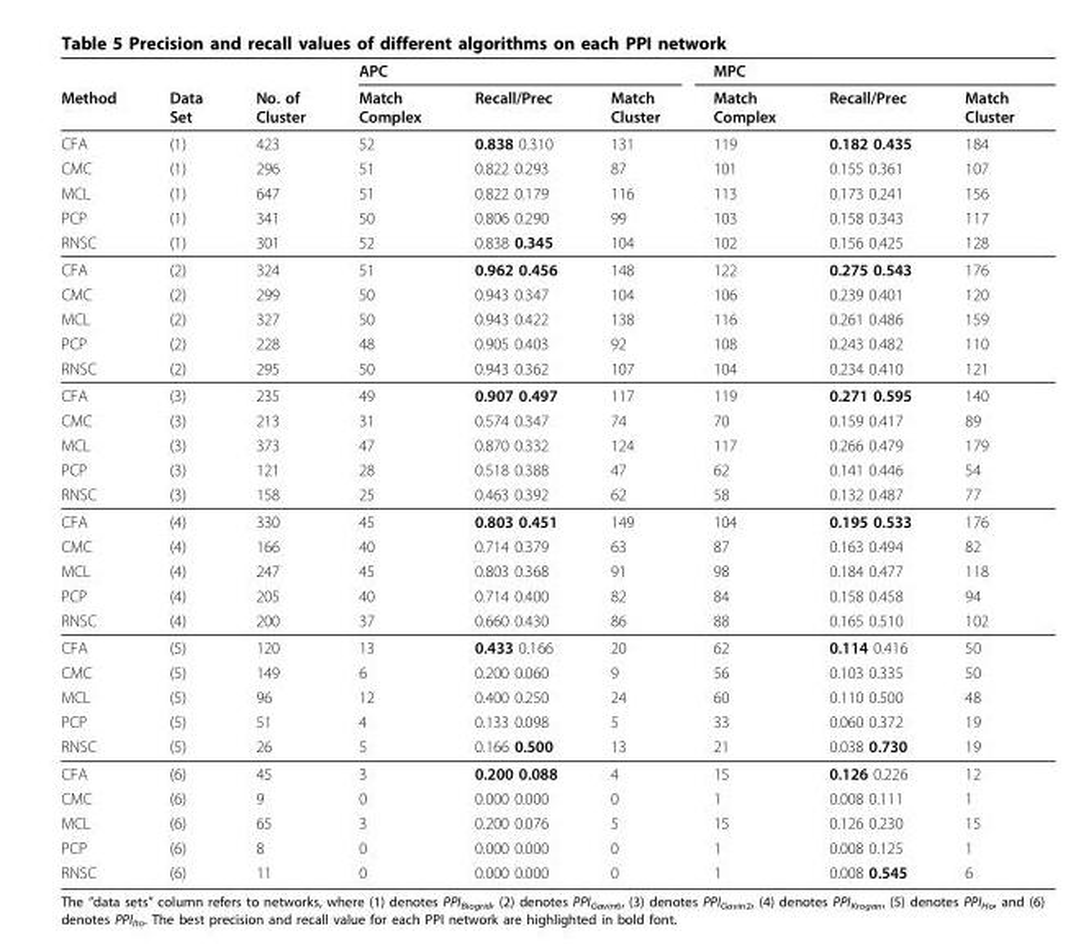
<table><thead><tr><td rowspan="2">Method</td><td rowspan="2">Data Set</td><td rowspan="2">No. of Cluster</td><td colspan="3">APC</td><td colspan="3">MPC</td></tr><tr><td>Match Complex</td><td>Recall/Prec</td><td>Match Cluster</td><td>Match Complex</td><td>Recall/Prec</td><td>Match Cluster</td></tr></thead><tbody><tr><td>CFA</td><td>(1)</td><td>423</td><td>52</td><td>0.838 0.310</td><td>131</td><td>119</td><td>0.182 0.435</td><td>184</td></tr><tr><td>CMC</td><td>(1)</td><td>296</td><td>51</td><td>0.822 0.293</td><td>87</td><td>101</td><td>0.155 0.361</td><td>107</td></tr><tr><td>MCL</td><td>(1)</td><td>647</td><td>51</td><td>0.822 0.179</td><td>116</td><td>113</td><td>0.173 0.241</td><td>156</td></tr><tr><td>PCP</td><td>(1)</td><td>341</td><td>50</td><td>0.806 0.290</td><td>99</td><td>103</td><td>0.158 0.343</td><td>117</td></tr><tr><td>RNSC</td><td>(1)</td><td>301</td><td>52</td><td>0.838 0.345</td><td>104</td><td>102</td><td>0.156 0.425</td><td>128</td></tr><tr><td>CFA</td><td>(2)</td><td>324</td><td>51</td><td>0.962 0.456</td><td>148</td><td>122</td><td>0.275 0.543</td><td>176</td></tr><tr><td>CMC</td><td>(2)</td><td>299</td><td>50</td><td>0.943 0.347</td><td>104</td><td>106</td><td>0.239 0.401</td><td>120</td></tr><tr><td>MCL</td><td>(2)</td><td>327</td><td>50</td><td>0.943 0.422</td><td>138</td><td>116</td><td>0.261 0.486</td><td>159</td></tr><tr><td>PCP</td><td>(2)</td><td>228</td><td>48</td><td>0.905 0.403</td><td>92</td><td>108</td><td>0.243 0.482</td><td>110</td></tr><tr><td>RNSC</td><td>(2)</td><td>295</td><td>50</td><td>0.943 0.362</td><td>107</td><td>104</td><td>0.234 0.410</td><td>121</td></tr><tr><td>CFA</td><td>(3)</td><td>235</td><td>49</td><td>0.907 0.497</td><td>117</td><td>119</td><td>0.271 0.595</td><td>140</td></tr><tr><td>CMC</td><td>(3)</td><td>213</td><td>31</td><td>0.574 0.347</td><td>74</td><td>70</td><td>0.159 0.417</td><td>89</td></tr><tr><td>MCL</td><td>(3)</td><td>373</td><td>47</td><td>0.870 0.332</td><td>124</td><td>117</td><td>0.266 0.479</td><td>179</td></tr><tr><td>PCP</td><td>(3)</td><td>121</td><td>28</td><td>0.518 0.388</td><td>47</td><td>62</td><td>0.141 0.446</td><td>54</td></tr><tr><td>RNSC</td><td>(3)</td><td>158</td><td>25</td><td>0.463 0.392</td><td>62</td><td>58</td><td>0.132 0.487</td><td>77</td></tr><tr><td>CFA</td><td>(4)</td><td>330</td><td>45</td><td>0.803 0.451</td><td>149</td><td>104</td><td>0.195 0.533</td><td>176</td></tr><tr><td>CMC</td><td>(4)</td><td>166</td><td>40</td><td>0.714 0.379</td><td>63</td><td>87</td><td>0.163 0.494</td><td>82</td></tr><tr><td>MCL</td><td>(4)</td><td>247</td><td>45</td><td>0.803 0.368</td><td>91</td><td>98</td><td>0.184 0.477</td><td>118</td></tr><tr><td>PCP</td><td>(4)</td><td>205</td><td>40</td><td>0.714 0.400</td><td>82</td><td>84</td><td>0.158 0.458</td><td>94</td></tr><tr><td>RNSC</td><td>(4)</td><td>200</td><td>37</td><td>0.660 0.430</td><td>86</td><td>88</td><td>0.165 0.510</td><td>102</td></tr><tr><td>CFA</td><td>(5)</td><td>120</td><td>13</td><td>0.433 0.166</td><td>20</td><td>62</td><td>0.114 0.416</td><td>50</td></tr><tr><td>CMC</td><td>(5)</td><td>149</td><td>6</td><td>0.200 0.060</td><td>9</td><td>56</td><td>0.103 0.335</td><td>50</td></tr><tr><td>MCL</td><td>(5)</td><td>96</td><td>12</td><td>0.400 0.250</td><td>24</td><td>60</td><td>0.110 0.500</td><td>48</td></tr><tr><td>PCP</td><td>(5)</td><td>51</td><td>4</td><td>0.133 0.098</td><td>5</td><td>33</td><td>0.060 0.372</td><td>19</td></tr><tr><td>RNSC</td><td>(5)</td><td>26</td><td>5</td><td>0.166 0.500</td><td>13</td><td>21</td><td>0.038 0.730</td><td>19</td></tr><tr><td>CFA</td><td>(6)</td><td>45</td><td>3</td><td>0.200 0.088</td><td>4</td><td>15</td><td>0.126 0.226</td><td>12</td></tr><tr><td>CMC</td><td>(6)</td><td>9</td><td>0</td><td>0.000 0.000</td><td>0</td><td>1</td><td>0.008 0.111</td><td>1</td></tr><tr><td>MCL</td><td>(6)</td><td>65</td><td>3</td><td>0.200 0.076</td><td>5</td><td>15</td><td>0.126 0.230</td><td>15</td></tr><tr><td>PCP</td><td>(6)</td><td>8</td><td>0</td><td>0.000 0.000</td><td>0</td><td>1</td><td>0.008 0.125</td><td>1</td></tr><tr><td>RNSC</td><td>(6)</td><td>11</td><td>0</td><td>0.000 0.000</td><td>0</td><td>1</td><td>0.008 0.545</td><td>6</td></tr></tbody></table>